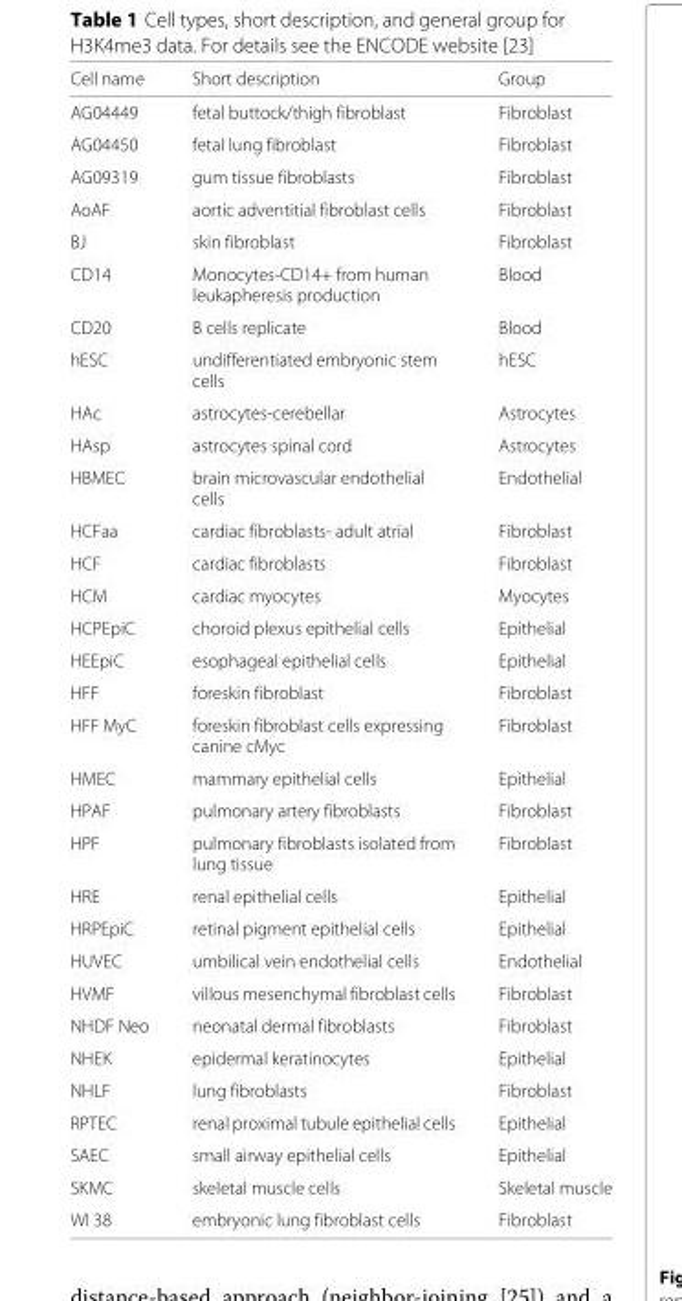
<table><thead><tr><td>Cell name</td><td>Short description</td><td>Group</td></tr></thead><tbody><tr><td>AG04449</td><td>fetal buttock/thigh fibroblast</td><td>Fibroblast</td></tr><tr><td>AG04450</td><td>fetal lung fibroblast</td><td>Fibroblast</td></tr><tr><td>AG09319</td><td>gum tissue fibroblasts</td><td>Fibroblast</td></tr><tr><td>AoAF</td><td>aortic adventitial fibroblast cells</td><td>Fibroblast</td></tr><tr><td>BJ</td><td>skin fibroblast</td><td>Fibroblast</td></tr><tr><td>CD14</td><td>Monocytes-CD14+ from human leukapheresis production</td><td>Blood</td></tr><tr><td>CD20</td><td>B cells replicate</td><td>Blood</td></tr><tr><td>hESC</td><td>undifferentiated embryonic stem cells</td><td>hESC</td></tr><tr><td>HAc</td><td>astrocytes-cerebellar</td><td>Astrocytes</td></tr><tr><td>HAsp</td><td>astrocytes spinal cord</td><td>Astrocytes</td></tr><tr><td>HBMEC</td><td>brain microvascular endothelial cells</td><td>Endothelial</td></tr><tr><td>HCFaa</td><td>cardiac fibroblasts- adult atrial</td><td>Fibroblast</td></tr><tr><td>HCF</td><td>cardiac fibroblasts</td><td>Fibroblast</td></tr><tr><td>HCM</td><td>cardiac myocytes</td><td>Myocytes</td></tr><tr><td>HCPEpiC</td><td>choroid plexus epithelial cells</td><td>Epithelial</td></tr><tr><td>HEEpiC</td><td>esophageal epithelial cells</td><td>Epithelial</td></tr><tr><td>HFF</td><td>foreskin fibroblast</td><td>Fibroblast</td></tr><tr><td>HFF MyC</td><td>foreskin fibroblast cells expressing canine cMyc</td><td>Fibroblast</td></tr><tr><td>HMEC</td><td>mammary epithelial cells</td><td>Epithelial</td></tr><tr><td>HPAF</td><td>pulmonary artery fibroblasts</td><td>Fibroblast</td></tr><tr><td>HPF</td><td>pulmonary fibroblasts isolated from lung tissue</td><td>Fibroblast</td></tr><tr><td>HRE</td><td>renal epithelial cells</td><td>Epithelial</td></tr><tr><td>HRPEpiC</td><td>retinal pigment epithelial cells</td><td>Epithelial</td></tr><tr><td>HUVEC</td><td>umbilical vein endothelial cells</td><td>Endothelial</td></tr><tr><td>HVMF</td><td>villous mesenchymal fibroblast cells</td><td>Fibroblast</td></tr><tr><td>NHDF Neo</td><td>neonatal dermal fibroblasts</td><td>Fibroblast</td></tr><tr><td>NHEK</td><td>epidermal keratinocytes</td><td>Epithelial</td></tr><tr><td>NHLF</td><td>lung fibroblasts</td><td>Fibroblast</td></tr><tr><td>RPTEC</td><td>renal proximal tubule epithelial cells</td><td>Epithelial</td></tr><tr><td>SAEC</td><td>small airway epithelial cells</td><td>Epithelial</td></tr><tr><td>SKMC</td><td>skeletal muscle cells</td><td>Skeletal muscle</td></tr><tr><td>WI 38</td><td>embryonic lung fibroblast cells</td><td>Fibroblast</td></tr></tbody></table>